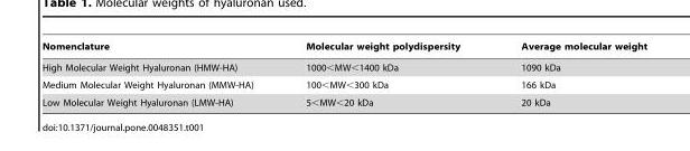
<table><thead><tr><td>Nomenclature</td><td>Molecular weight polydispersity</td><td>Average molecular weight</td></tr></thead><tbody><tr><td>High Molecular Weight Hyaluronan (HMW-HA)</td><td>1000&lt;MW&lt;1400 kDa</td><td>1090 kDa</td></tr><tr><td>Medium Molecular Weight Hyaluronan (MMW-HA)</td><td>100&lt;MW&lt;300 kDa</td><td>166 kDa</td></tr><tr><td>Low Molecular Weight Hyaluronan (LMW-HA)</td><td>5&lt;MW&lt;20 kDa</td><td>20 kDa</td></tr></tbody></table>